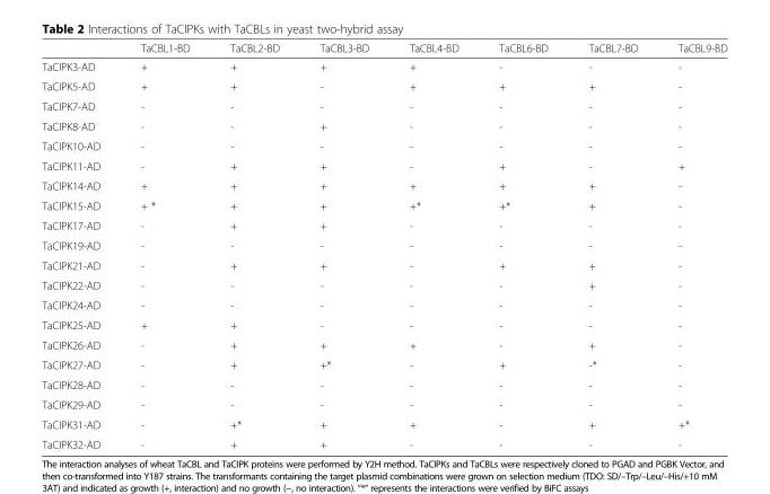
<table><thead><tr><td></td><td>TaCBL1-BD</td><td>TaCBL2-BD</td><td>TaCBL3-BD</td><td>TaCBL4-BD</td><td>TaCBL6-BD</td><td>TaCBL7-BD</td><td>TaCBL9-BD</td></tr></thead><tbody><tr><td>TaCIPK3-AD</td><td>+</td><td>+</td><td>+</td><td>+</td><td>-</td><td>-</td><td>-</td></tr><tr><td>TaCIPK5-AD</td><td>+</td><td>+</td><td>-</td><td>+</td><td>+</td><td>+</td><td>-</td></tr><tr><td>TaCIPK7-AD</td><td>-</td><td>-</td><td>-</td><td>-</td><td>-</td><td>-</td><td>-</td></tr><tr><td>TaCIPK8-AD</td><td>-</td><td>-</td><td>+</td><td>-</td><td>-</td><td>-</td><td>-</td></tr><tr><td>TaCIPK10-AD</td><td>-</td><td>-</td><td>-</td><td>-</td><td>-</td><td>-</td><td>-</td></tr><tr><td>TaCIPK11-AD</td><td>-</td><td>+</td><td>+</td><td>-</td><td>+</td><td>-</td><td>+</td></tr><tr><td>TaCIPK14-AD</td><td>+</td><td>+</td><td>+</td><td>+</td><td>+</td><td>+</td><td>-</td></tr><tr><td>TaCIPK15-AD</td><td>+ *</td><td>+</td><td>+</td><td>+*</td><td>+*</td><td>+</td><td>-</td></tr><tr><td>TaCIPK17-AD</td><td>-</td><td>+</td><td>+</td><td>-</td><td>-</td><td>-</td><td>-</td></tr><tr><td>TaCIPK19-AD</td><td>-</td><td>-</td><td>-</td><td>-</td><td>-</td><td>-</td><td>-</td></tr><tr><td>TaCIPK21-AD</td><td>-</td><td>+</td><td>+</td><td>-</td><td>+</td><td>+</td><td>-</td></tr><tr><td>TaCIPK22-AD</td><td>-</td><td>-</td><td>-</td><td>-</td><td>-</td><td>+</td><td>-</td></tr><tr><td>TaCIPK24-AD</td><td>-</td><td>-</td><td>-</td><td>-</td><td>-</td><td>-</td><td>-</td></tr><tr><td>TaCIPK25-AD</td><td>+</td><td>+</td><td>-</td><td>-</td><td>-</td><td>-</td><td>-</td></tr><tr><td>TaCIPK26-AD</td><td>-</td><td>+</td><td>+</td><td>+</td><td>-</td><td>+</td><td>-</td></tr><tr><td>TaCIPK27-AD</td><td>-</td><td>+</td><td>+*</td><td>-</td><td>+</td><td>-*</td><td>-</td></tr><tr><td>TaCIPK28-AD</td><td>-</td><td>-</td><td>-</td><td>-</td><td>-</td><td>-</td><td>-</td></tr><tr><td>TaCIPK29-AD</td><td>-</td><td>-</td><td>-</td><td>-</td><td>-</td><td>-</td><td>-</td></tr><tr><td>TaCIPK31-AD</td><td>-</td><td>+*</td><td>+</td><td>+</td><td>-</td><td>+</td><td>+*</td></tr><tr><td>TaCIPK32-AD</td><td>-</td><td>+</td><td>+</td><td>-</td><td>-</td><td>-</td><td>-</td></tr></tbody></table>